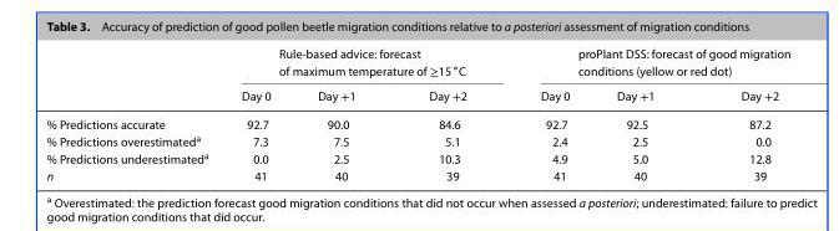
<table><thead><tr><td rowspan="2"></td><td colspan="3">Rule-based advice: forecast of maximum temperature of ≥15 ∘C</td><td colspan="3">proPlant DSS: forecast of good migration conditions (yellow or red dot)</td></tr><tr><td>Day 0</td><td>Day +1</td><td>Day +2</td><td>Day 0</td><td>Day +1</td><td>Day +2</td></tr></thead><tbody><tr><td>% Predictions accurate</td><td>92.7</td><td>90.0</td><td>84.6</td><td>92.7</td><td>92.5</td><td>87.2</td></tr><tr><td>% Predictions overestimated<sup>a</sup></td><td>7.3</td><td>7.5</td><td>5.1</td><td>2.4</td><td>2.5</td><td>0.0</td></tr><tr><td>% Predictions underestimated<sup>a</sup></td><td>0.0</td><td>2.5</td><td>10.3</td><td>4.9</td><td>5.0</td><td>12.8</td></tr><tr><td>n</td><td>41</td><td>40</td><td>39</td><td>41</td><td>40</td><td>39</td></tr></tbody></table>